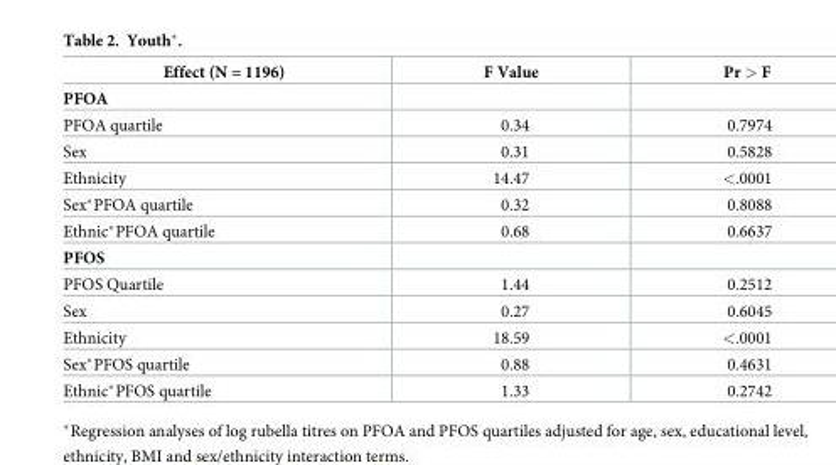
<table><thead><tr><td>Effect (N = 1196)</td><td>F Value</td><td>Pr &gt; F</td></tr></thead><tbody><tr><td colspan="3">PFOA</td></tr><tr><td>PFOA quartile</td><td>0.34</td><td>0.7974</td></tr><tr><td>Sex</td><td>0.31</td><td>0.5828</td></tr><tr><td>Ethnicity</td><td>14.47</td><td>&lt;.0001</td></tr><tr><td>Sex*PFOA quartile</td><td>0.32</td><td>0.8088</td></tr><tr><td>Ethnic*PFOA quartile</td><td>0.68</td><td>0.6637</td></tr><tr><td colspan="3">PFOS</td></tr><tr><td>PFOS Quartile</td><td>1.44</td><td>0.2512</td></tr><tr><td>Sex</td><td>0.27</td><td>0.6045</td></tr><tr><td>Ethnicity</td><td>18.59</td><td>&lt;.0001</td></tr><tr><td>Sex*PFOS quartile</td><td>0.88</td><td>0.4631</td></tr><tr><td>Ethnic*PFOS quartile</td><td>1.33</td><td>0.2742</td></tr></tbody></table>